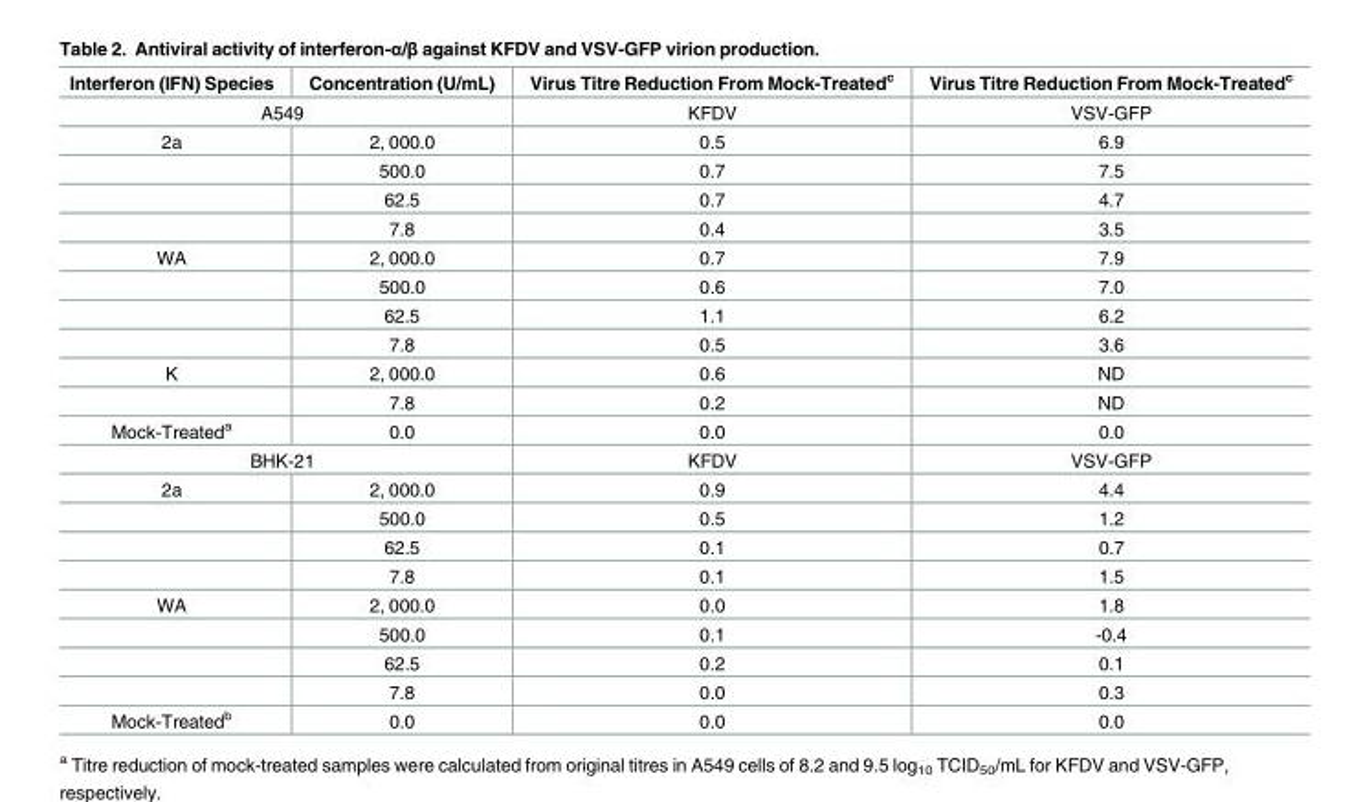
<table><thead><tr><td>Interferon (IFN) Species</td><td>Concentration (U/mL)</td><td>Virus Titre Reduction From Mock-Treated<sup>c</sup></td><td>Virus Titre Reduction From Mock-Treated<sup>c</sup></td></tr></thead><tbody><tr><td colspan="2">A549</td><td>KFDV</td><td>VSV-GFP</td></tr><tr><td rowspan="4">2a</td><td>2, 000.0</td><td>0.5</td><td>6.9</td></tr><tr><td>500.0</td><td>0.7</td><td>7.5</td></tr><tr><td>62.5</td><td>0.7</td><td>4.7</td></tr><tr><td>7.8</td><td>0.4</td><td>3.5</td></tr><tr><td rowspan="4">WA</td><td>2, 000.0</td><td>0.7</td><td>7.9</td></tr><tr><td>500.0</td><td>0.6</td><td>7.0</td></tr><tr><td>62.5</td><td>1.1</td><td>6.2</td></tr><tr><td>7.8</td><td>0.5</td><td>3.6</td></tr><tr><td rowspan="2">K</td><td>2, 000.0</td><td>0.6</td><td>ND</td></tr><tr><td>7.8</td><td>0.2</td><td>ND</td></tr><tr><td>Mock-Treated<sup>a</sup></td><td>0.0</td><td>0.0</td><td>0.0</td></tr><tr><td colspan="2">BHK-21</td><td>KFDV</td><td>VSV-GFP</td></tr><tr><td rowspan="4">2a</td><td>2, 000.0</td><td>0.9</td><td>4.4</td></tr><tr><td>500.0</td><td>0.5</td><td>1.2</td></tr><tr><td>62.5</td><td>0.1</td><td>0.7</td></tr><tr><td>7.8</td><td>0.1</td><td>1.5</td></tr><tr><td rowspan="4">WA</td><td>2, 000.0</td><td>0.0</td><td>1.8</td></tr><tr><td>500.0</td><td>0.1</td><td>-0.4</td></tr><tr><td>62.5</td><td>0.2</td><td>0.1</td></tr><tr><td>7.8</td><td>0.0</td><td>0.3</td></tr><tr><td>Mock-Treated<sup>b</sup></td><td>0.0</td><td>0.0</td><td>0.0</td></tr></tbody></table>